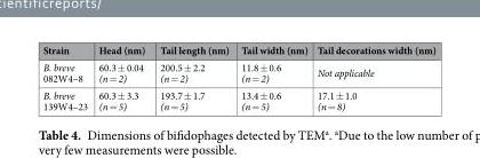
<table><thead><tr><td>Strain</td><td>Head (nm)</td><td>Tail length (nm)</td><td>Tail width (nm)</td><td>Tail decorations width (nm)</td></tr></thead><tbody><tr><td>B. breve 082W4–8</td><td>60.3 ± 0.04 (n = 2)</td><td>200.5 ± 2.2 (n = 2)</td><td>11.8 ± 0.6 (n = 2)</td><td>Not applicable</td></tr><tr><td>B. breve 139W4–23</td><td>60.3 ± 3.3 (n = 5)</td><td>193.7 ± 1.7 (n = 5)</td><td>13.4 ± 0.6 (n = 5)</td><td>17.1 ± 1.0 (n = 8)</td></tr></tbody></table>